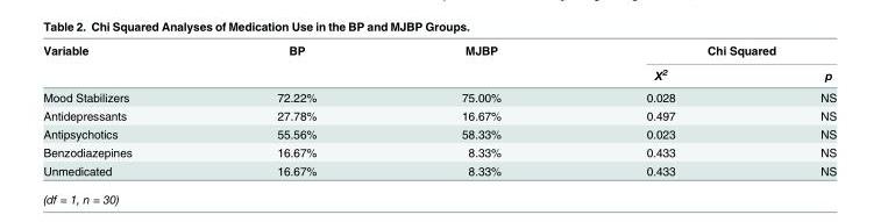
<table><thead><tr><td rowspan="2">Variable</td><td rowspan="2">BP</td><td rowspan="2">MJBP</td><td colspan="2">Chi Squared</td></tr><tr><td>X<sup>2</sup></td><td>p</td></tr></thead><tbody><tr><td>Mood Stabilizers</td><td>72.22%</td><td>75.00%</td><td>0.028</td><td>NS</td></tr><tr><td>Antidepressants</td><td>27.78%</td><td>16.67%</td><td>0.497</td><td>NS</td></tr><tr><td>Antipsychotics</td><td>55.56%</td><td>58.33%</td><td>0.023</td><td>NS</td></tr><tr><td>Benzodiazepines</td><td>16.67%</td><td>8.33%</td><td>0.433</td><td>NS</td></tr><tr><td>Unmedicated</td><td>16.67%</td><td>8.33%</td><td>0.433</td><td>NS</td></tr></tbody></table>